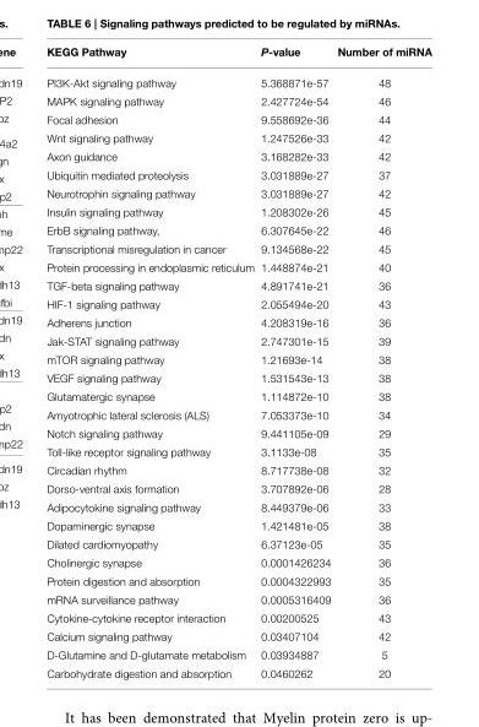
<table><thead><tr><td>KEGG Pathway</td><td>P-value</td><td>Number of miRNA</td></tr></thead><tbody><tr><td>PI3K-Akt signaling pathway</td><td>5.368871e-57</td><td>48</td></tr><tr><td>MAPK signaling pathway</td><td>2.427724e-54</td><td>46</td></tr><tr><td>Focal adhesion</td><td>9.558692e-36</td><td>44</td></tr><tr><td>Wnt signaling pathway</td><td>1.247526e-33</td><td>42</td></tr><tr><td>Axon guidance</td><td>3.168282e-33</td><td>42</td></tr><tr><td>Ubiquitin mediated proteolysis</td><td>3.031889e-27</td><td>37</td></tr><tr><td>Neurotrophin signaling pathway</td><td>3.031889e-27</td><td>42</td></tr><tr><td>Insulin signaling pathway</td><td>1.208302e-26</td><td>45</td></tr><tr><td>ErbB signaling pathway,</td><td>6.307645e-22</td><td>46</td></tr><tr><td>Transcriptional misregulation in cancer</td><td>9.134568e-22</td><td>45</td></tr><tr><td>Protein processing in endoplasmic reticulum</td><td>1.448874e-21</td><td>40</td></tr><tr><td>TGF-beta signaling pathway</td><td>4.891741e-21</td><td>36</td></tr><tr><td>HIF-1 signaling pathway</td><td>2.055494e-20</td><td>43</td></tr><tr><td>Adherens junction</td><td>4.208319e-16</td><td>36</td></tr><tr><td>Jak-STAT signaling pathway</td><td>2.747301e-15</td><td>39</td></tr><tr><td>mTOR signaling pathway</td><td>1.21693e-14</td><td>38</td></tr><tr><td>VEGF signaling pathway</td><td>1.531543e-13</td><td>38</td></tr><tr><td>Glutamatergic synapse</td><td>1.114872e-10</td><td>38</td></tr><tr><td>Amyotrophic lateral sclerosis (ALS)</td><td>7.053373e-10</td><td>34</td></tr><tr><td>Notch signaling pathway</td><td>9.441105e-09</td><td>29</td></tr><tr><td>Toll-like receptor signaling pathway</td><td>3.1133e-08</td><td>35</td></tr><tr><td>Circadian rhythm</td><td>8.717738e-08</td><td>32</td></tr><tr><td>Dorso-ventral axis formation</td><td>3.707892e-06</td><td>28</td></tr><tr><td>Adipocytokine signaling pathway</td><td>8.449379e-06</td><td>33</td></tr><tr><td>Dopaminergic synapse</td><td>1.421481e-05</td><td>38</td></tr><tr><td>Dilated cardiomyopathy</td><td>6.37123e-05</td><td>35</td></tr><tr><td>Cholinergic synapse</td><td>0.0001426234</td><td>36</td></tr><tr><td>Protein digestion and absorption</td><td>0.0004322993</td><td>35</td></tr><tr><td>mRNA surveillance pathway</td><td>0.0005316409</td><td>36</td></tr><tr><td>Cytokine-cytokine receptor interaction</td><td>0.00200525</td><td>43</td></tr><tr><td>Calcium signaling pathway</td><td>0.03407104</td><td>42</td></tr><tr><td>D-Glutamine and D-glutamate metabolism</td><td>0.03934887</td><td>5</td></tr><tr><td>Carbohydrate digestion and absorption</td><td>0.0460262</td><td>20</td></tr></tbody></table>